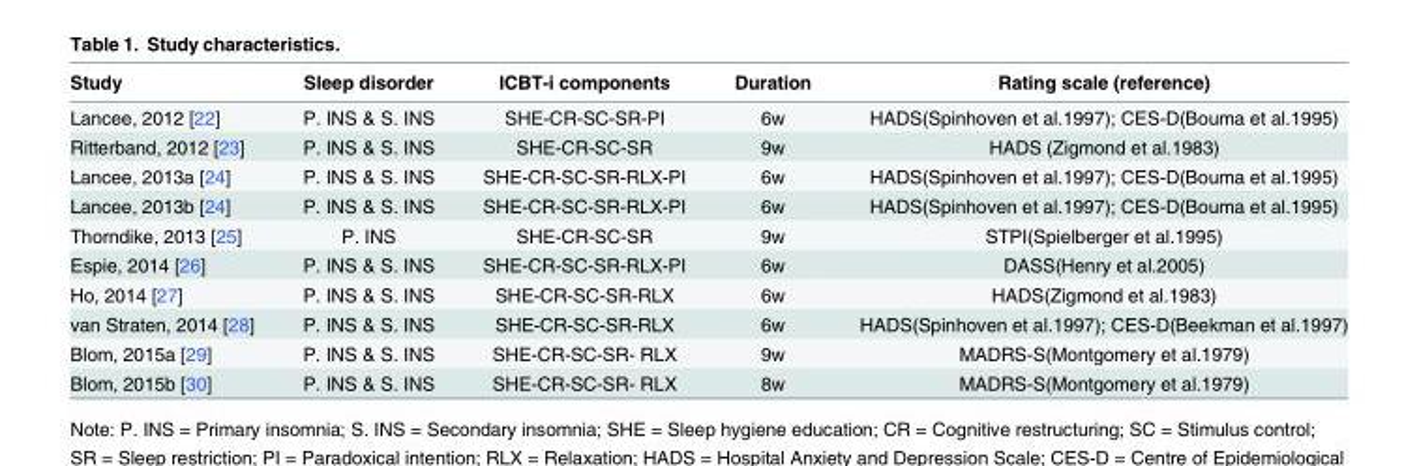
<table><thead><tr><td>Study</td><td>Sleep disorder</td><td>ICBT-i components</td><td>Duration</td><td>Rating scale (reference)</td></tr></thead><tbody><tr><td>Lancee, 2012 [22]</td><td>P. INS &amp; S. INS</td><td>SHE-CR-SC-SR-PI</td><td>6w</td><td>HADS(Spinhoven et al.1997); CES-D(Bouma et al.1995)</td></tr><tr><td>Ritterband, 2012 [23]</td><td>P. INS &amp; S. INS</td><td>SHE-CR-SC-SR</td><td>9w</td><td>HADS (Zigmond et al.1983)</td></tr><tr><td>Lancee, 2013a [24]</td><td>P. INS &amp; S. INS</td><td>SHE-CR-SC-SR-RLX-PI</td><td>6w</td><td>HADS(Spinhoven et al.1997); CES-D(Bouma et al.1995)</td></tr><tr><td>Lancee, 2013b [24]</td><td>P. INS &amp; S. INS</td><td>SHE-CR-SC-SR-RLX-PI</td><td>6w</td><td>HADS(Spinhoven et al.1997); CES-D(Bouma et al.1995)</td></tr><tr><td>Thorndike, 2013 [25]</td><td>P. INS</td><td>SHE-CR-SC-SR</td><td>9w</td><td>STPI(Spielberger et al.1995)</td></tr><tr><td>Espie, 2014 [26]</td><td>P. INS &amp; S. INS</td><td>SHE-CR-SC-SR-RLX-PI</td><td>6w</td><td>DASS(Henry et al.2005)</td></tr><tr><td>Ho, 2014 [27]</td><td>P. INS &amp; S. INS</td><td>SHE-CR-SC-SR-RLX</td><td>6w</td><td>HADS(Zigmond et al.1983)</td></tr><tr><td>van Straten, 2014 [28]</td><td>P. INS &amp; S. INS</td><td>SHE-CR-SC-SR-RLX</td><td>6w</td><td>HADS(Spinhoven et al.1997); CES-D(Beekman et al.1997)</td></tr><tr><td>Blom, 2015a [29]</td><td>P. INS &amp; S. INS</td><td>SHE-CR-SC-SR- RLX</td><td>9w</td><td>MADRS-S(Montgomery et al.1979)</td></tr><tr><td>Blom, 2015b [30]</td><td>P. INS &amp; S. INS</td><td>SHE-CR-SC-SR- RLX</td><td>8w</td><td>MADRS-S(Montgomery et al.1979)</td></tr></tbody></table>